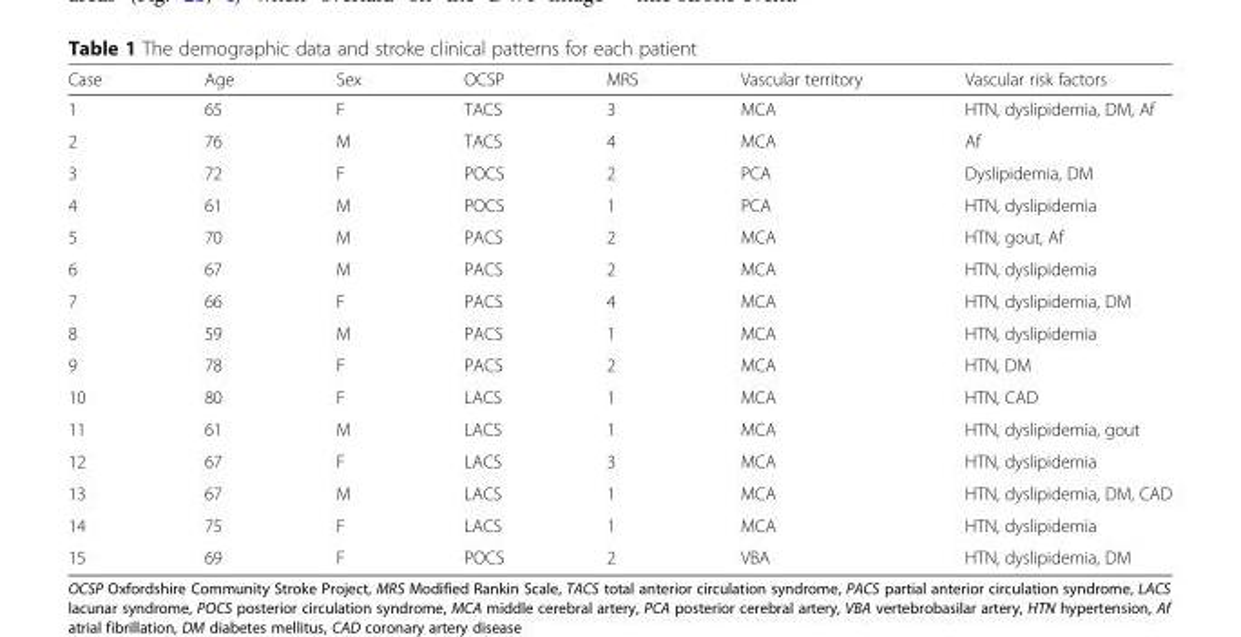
<table><thead><tr><td>Case</td><td>Age</td><td>Sex</td><td>OCSP</td><td>MRS</td><td>Vascular territory</td><td>Vascular risk factors</td></tr></thead><tbody><tr><td>1</td><td>65</td><td>F</td><td>TACS</td><td>3</td><td>MCA</td><td>HTN, dyslipidemia, DM, Af</td></tr><tr><td>2</td><td>76</td><td>M</td><td>TACS</td><td>4</td><td>MCA</td><td>Af</td></tr><tr><td>3</td><td>72</td><td>F</td><td>POCS</td><td>2</td><td>PCA</td><td>Dyslipidemia, DM</td></tr><tr><td>4</td><td>61</td><td>M</td><td>POCS</td><td>1</td><td>PCA</td><td>HTN, dyslipidemia</td></tr><tr><td>5</td><td>70</td><td>M</td><td>PACS</td><td>2</td><td>MCA</td><td>HTN, gout, Af</td></tr><tr><td>6</td><td>67</td><td>M</td><td>PACS</td><td>2</td><td>MCA</td><td>HTN, dyslipidemia</td></tr><tr><td>7</td><td>66</td><td>F</td><td>PACS</td><td>4</td><td>MCA</td><td>HTN, dyslipidemia, DM</td></tr><tr><td>8</td><td>59</td><td>M</td><td>PACS</td><td>1</td><td>MCA</td><td>HTN, dyslipidemia</td></tr><tr><td>9</td><td>78</td><td>F</td><td>PACS</td><td>2</td><td>MCA</td><td>HTN, DM</td></tr><tr><td>10</td><td>80</td><td>F</td><td>LACS</td><td>1</td><td>MCA</td><td>HTN, CAD</td></tr><tr><td>11</td><td>61</td><td>M</td><td>LACS</td><td>1</td><td>MCA</td><td>HTN, dyslipidemia, gout</td></tr><tr><td>12</td><td>67</td><td>F</td><td>LACS</td><td>3</td><td>MCA</td><td>HTN, dyslipidemia</td></tr><tr><td>13</td><td>67</td><td>M</td><td>LACS</td><td>1</td><td>MCA</td><td>HTN, dyslipidemia, DM, CAD</td></tr><tr><td>14</td><td>75</td><td>F</td><td>LACS</td><td>1</td><td>MCA</td><td>HTN, dyslipidemia</td></tr><tr><td>15</td><td>69</td><td>F</td><td>POCS</td><td>2</td><td>VBA</td><td>HTN, dyslipidemia, DM</td></tr></tbody></table>